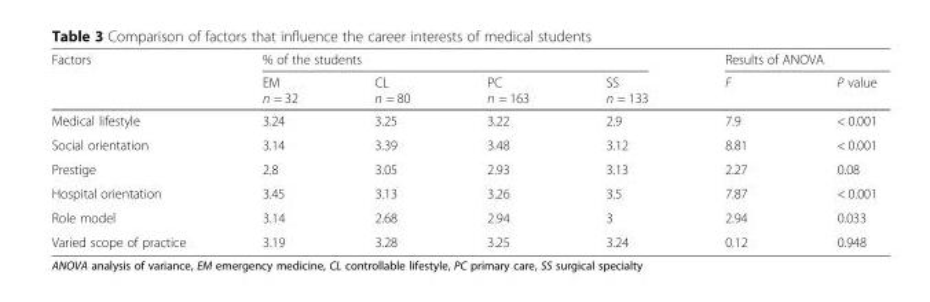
<table><thead><tr><td rowspan="2">Factors</td><td colspan="4">% of the students</td><td colspan="2">Results of ANOVA</td></tr><tr><td>EM n = 32</td><td>CL n = 80</td><td>PC n = 163</td><td>SS n = 133</td><td>F</td><td>P value</td></tr></thead><tbody><tr><td>Medical lifestyle</td><td>3.24</td><td>3.25</td><td>3.22</td><td>2.9</td><td>7.9</td><td>&lt; 0.001</td></tr><tr><td>Social orientation</td><td>3.14</td><td>3.39</td><td>3.48</td><td>3.12</td><td>8.81</td><td>&lt; 0.001</td></tr><tr><td>Prestige</td><td>2.8</td><td>3.05</td><td>2.93</td><td>3.13</td><td>2.27</td><td>0.08</td></tr><tr><td>Hospital orientation</td><td>3.45</td><td>3.13</td><td>3.26</td><td>3.5</td><td>7.87</td><td>&lt; 0.001</td></tr><tr><td>Role model</td><td>3.14</td><td>2.68</td><td>2.94</td><td>3</td><td>2.94</td><td>0.033</td></tr><tr><td>Varied scope of practice</td><td>3.19</td><td>3.28</td><td>3.25</td><td>3.24</td><td>0.12</td><td>0.948</td></tr></tbody></table>